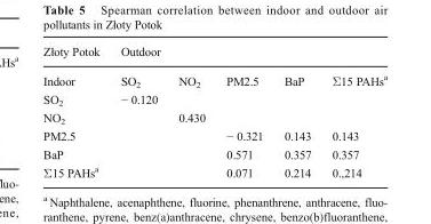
<table><thead><tr><td rowspan="2">Złoty Potok Indoor</td><td colspan="5">Outdoor</td></tr><tr><td>SO<sub>2</sub></td><td>NO<sub>2</sub></td><td>PM2.5</td><td>BaP</td><td>Σ15 PAHs<sup>a</sup></td></tr></thead><tbody><tr><td>SO<sub>2</sub></td><td>− 0.120</td><td></td><td></td><td></td><td></td></tr><tr><td>NO<sub>2</sub></td><td></td><td>0.430</td><td></td><td></td><td></td></tr><tr><td>PM2.5</td><td></td><td></td><td>− 0.321</td><td>0.143</td><td>0.143</td></tr><tr><td>BaP</td><td></td><td></td><td>0.571</td><td>0.357</td><td>0.357</td></tr><tr><td>Σ15 PAHs<sup>a</sup></td><td></td><td></td><td>0.071</td><td>0.214</td><td>0.,214</td></tr></tbody></table>